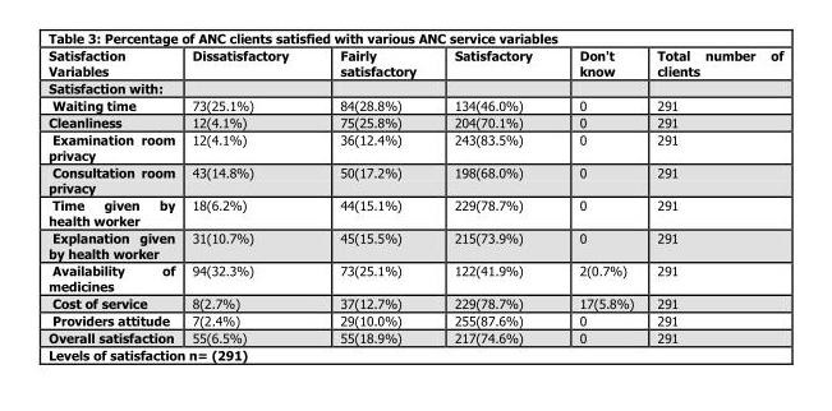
<table><thead><tr><td>Satisfaction Variables</td><td>Dissatisfactory</td><td>Fairly satisfactory</td><td>Satisfactory</td><td>Don&#x27;t know</td><td>Total number of clients</td></tr></thead><tbody><tr><td colspan="6">Satisfaction with:</td></tr><tr><td>Waiting time</td><td>73(25.1%)</td><td>84(28.8%)</td><td>134(46.0%)</td><td>0</td><td>291</td></tr><tr><td>Cleanliness</td><td>12(4.1%)</td><td>75(25.8%)</td><td>204(70.1%)</td><td>0</td><td>291</td></tr><tr><td>Examination room privacy</td><td>12(4.1%)</td><td>36(12.4%)</td><td>243(83.5%)</td><td>0</td><td>291</td></tr><tr><td>Consultation room privacy</td><td>43(14.8%)</td><td>50(17.2%)</td><td>198(68.0%)</td><td>0</td><td>291</td></tr><tr><td>Time given by health worker</td><td>18(6.2%)</td><td>44(15.1%)</td><td>229(78.7%)</td><td>0</td><td>291</td></tr><tr><td>Explanation given by health worker</td><td>31(10.7%)</td><td>45(15.5%)</td><td>215(73.9%)</td><td>0</td><td>291</td></tr><tr><td>Availability of medicines</td><td>94(32.3%)</td><td>73(25.1%)</td><td>122(41.9%)</td><td>2(0.7%)</td><td>291</td></tr><tr><td>Cost of service</td><td>8(2.7%)</td><td>37(12.7%)</td><td>229(78.7%)</td><td>17(5.8%)</td><td>291</td></tr><tr><td>Providers attitude</td><td>7(2.4%)</td><td>29(10.0%)</td><td>255(87.6%)</td><td>0</td><td>291</td></tr><tr><td>Overall satisfaction</td><td>55(6.5%)</td><td>55(18.9%)</td><td>217(74.6%)</td><td>0</td><td>291</td></tr><tr><td colspan="6">Levels of satisfaction n= (291)</td></tr></tbody></table>